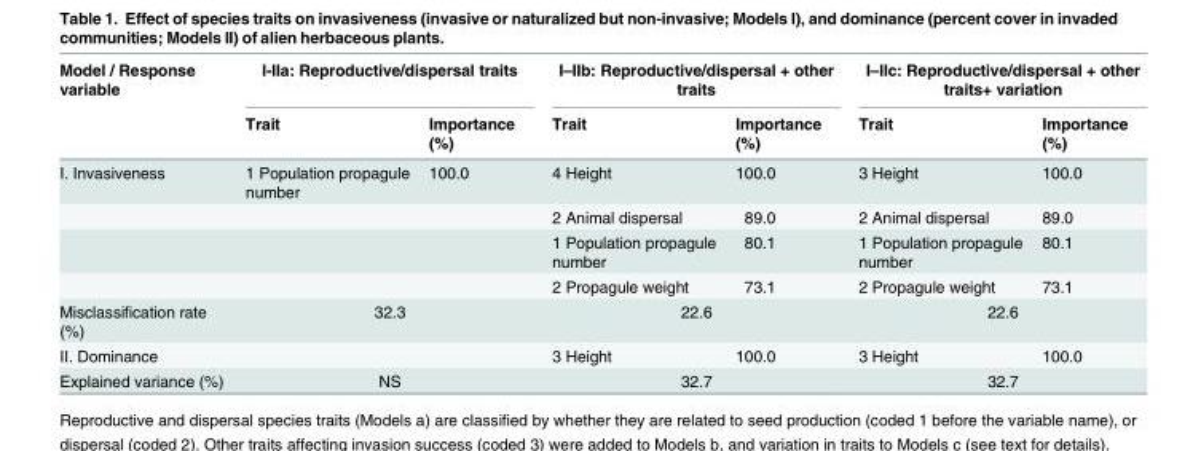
<table><thead><tr><td rowspan="2">Model / Response variable</td><td colspan="2">I-IIa: Reproductive/dispersal traits</td><td colspan="2">I–IIb: Reproductive/dispersal + other traits</td><td colspan="2">I–IIc: Reproductive/dispersal + other traits+ variation</td></tr><tr><td>Trait</td><td>Importance (%)</td><td>Trait</td><td>Importance (%)</td><td>Trait</td><td>Importance (%)</td></tr></thead><tbody><tr><td rowspan="4">I. Invasiveness</td><td>1 Population propagule number</td><td>100.0</td><td>4 Height</td><td>100.0</td><td>3 Height</td><td>100.0</td></tr><tr><td></td><td></td><td>2 Animal dispersal</td><td>89.0</td><td>2 Animal dispersal</td><td>89.0</td></tr><tr><td></td><td></td><td>1 Population propagule number</td><td>80.1</td><td>1 Population propagule number</td><td>80.1</td></tr><tr><td></td><td></td><td>2 Propagule weight</td><td>73.1</td><td>2 Propagule weight</td><td>73.1</td></tr><tr><td>Misclassification rate (%)</td><td colspan="2">32.3</td><td colspan="2">22.6</td><td colspan="2">22.6</td></tr><tr><td>II. Dominance</td><td></td><td></td><td>3 Height</td><td>100.0</td><td>3 Height</td><td>100.0</td></tr><tr><td>Explained variance (%)</td><td colspan="2">NS</td><td colspan="2">32.7</td><td colspan="2">32.7</td></tr></tbody></table>